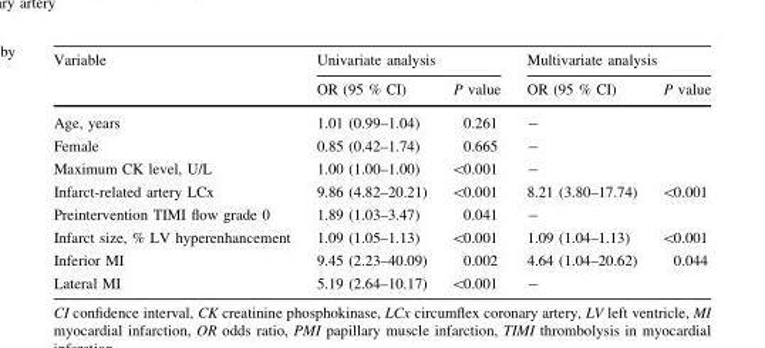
<table><thead><tr><td rowspan="2">Variable</td><td colspan="2">Univariate analysis</td><td colspan="2">Multivariate analysis</td></tr><tr><td>OR (95 % CI)</td><td>P value</td><td>OR (95 % CI)</td><td>P value</td></tr></thead><tbody><tr><td>Age, years</td><td>1.01 (0.99–1.04)</td><td>0.261</td><td>-</td><td></td></tr><tr><td>Female</td><td>0.85 (0.42–1.74)</td><td>0.665</td><td>-</td><td></td></tr><tr><td>Maximum CK level, U/L</td><td>1.00 (1.00–1.00)</td><td>&lt;0.001</td><td>-</td><td></td></tr><tr><td>Infarct-related artery LCx</td><td>9.86 (4.82–20.21)</td><td>&lt;0.001</td><td>8.21 (3.80–17.74)</td><td>&lt;0.001</td></tr><tr><td>Preintervention TIMI flow grade 0</td><td>1.89 (1.03–3.47)</td><td>0.041</td><td>-</td><td></td></tr><tr><td>Infarct size, % LV hyperenhancement</td><td>1.09 (1.05–1.13)</td><td>&lt;0.001</td><td>1.09 (1.04–1.13)</td><td>&lt;0.001</td></tr><tr><td>Inferior MI</td><td>9.45 (2.23–40.09)</td><td>0.002</td><td>4.64 (1.04–20.62)</td><td>0.044</td></tr><tr><td>Lateral MI</td><td>5.19 (2.64–10.17)</td><td>&lt;0.001</td><td>-</td><td></td></tr></tbody></table>